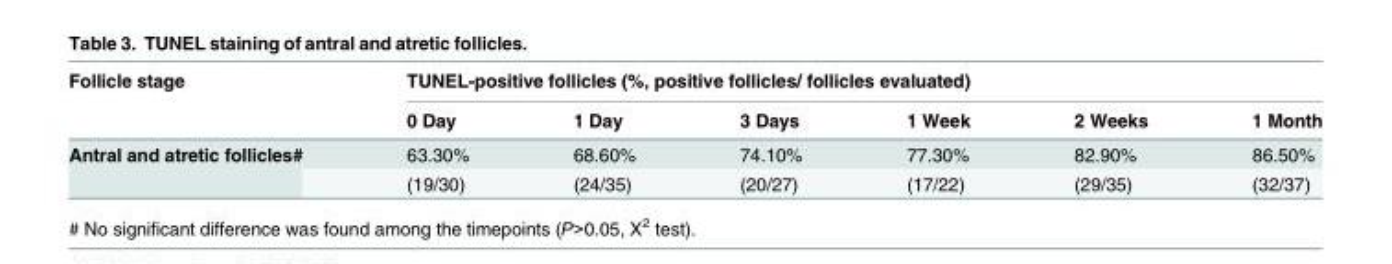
<table><thead><tr><td rowspan="2">Follicle stage</td><td colspan="6">TUNEL-positive follicles (%, positive follicles/ follicles evaluated)</td></tr><tr><td>0 Day</td><td>1 Day</td><td>3 Days</td><td>1 Week</td><td>2 Weeks</td><td>1 Month</td></tr></thead><tbody><tr><td rowspan="2">Antral and atretic follicles#</td><td>63.30%</td><td>68.60%</td><td>74.10%</td><td>77.30%</td><td>82.90%</td><td>86.50%</td></tr><tr><td>(19/30)</td><td>(24/35)</td><td>(20/27)</td><td>(17/22)</td><td>(29/35)</td><td>(32/37)</td></tr></tbody></table>